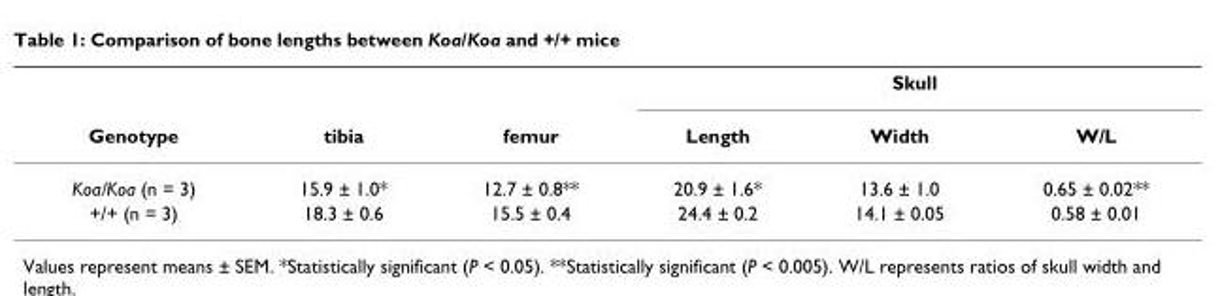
<table><thead><tr><td rowspan="2">Genotype</td><td rowspan="2">tibia</td><td rowspan="2">femur</td><td colspan="3">Skull</td></tr><tr><td>Length</td><td>Width</td><td>W/L</td></tr></thead><tbody><tr><td>Koa/Koa (n = 3)</td><td>15.9 ± 1.0*</td><td>12.7 ± 0.8**</td><td>20.9 ± 1.6*</td><td>13.6 ± 1.0</td><td>0.65 ± 0.02**</td></tr><tr><td>+/+ (n = 3)</td><td>18.3 ± 0.6</td><td>15.5 ± 0.4</td><td>24.4 ± 0.2</td><td>14.1 ± 0.05</td><td>0.58 ± 0.01</td></tr></tbody></table>